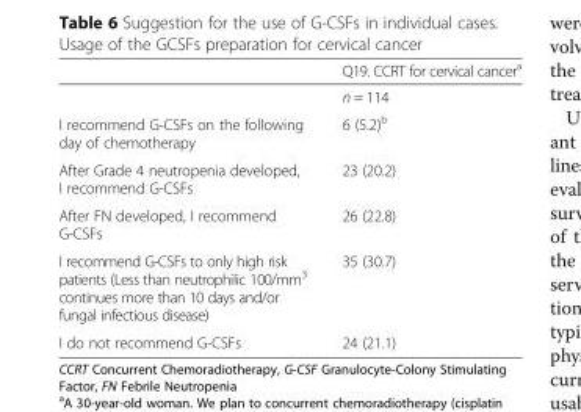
<table><thead><tr><td></td><td>Q19. CCRT for cervical cancer<sup>a</sup></td></tr></thead><tbody><tr><td></td><td>n = 114</td></tr><tr><td>I recommend G-CSFs on the following day of chemotherapy</td><td>6 (5.2)<sup>b</sup></td></tr><tr><td>After Grade 4 neutropenia developed, I recommend G-CSFs</td><td>23 (20.2)</td></tr><tr><td>After FN developed, I recommend G-CSFs</td><td>26 (22.8)</td></tr><tr><td>I recommend G-CSFs to only high risk patients (Less than neutrophilic 100/mm<sup>3</sup> continues more than 10 days and/or fungal infectious disease)</td><td>35 (30.7)</td></tr><tr><td>I do not recommend G-CSFs</td><td>24 (21.1)</td></tr></tbody></table>